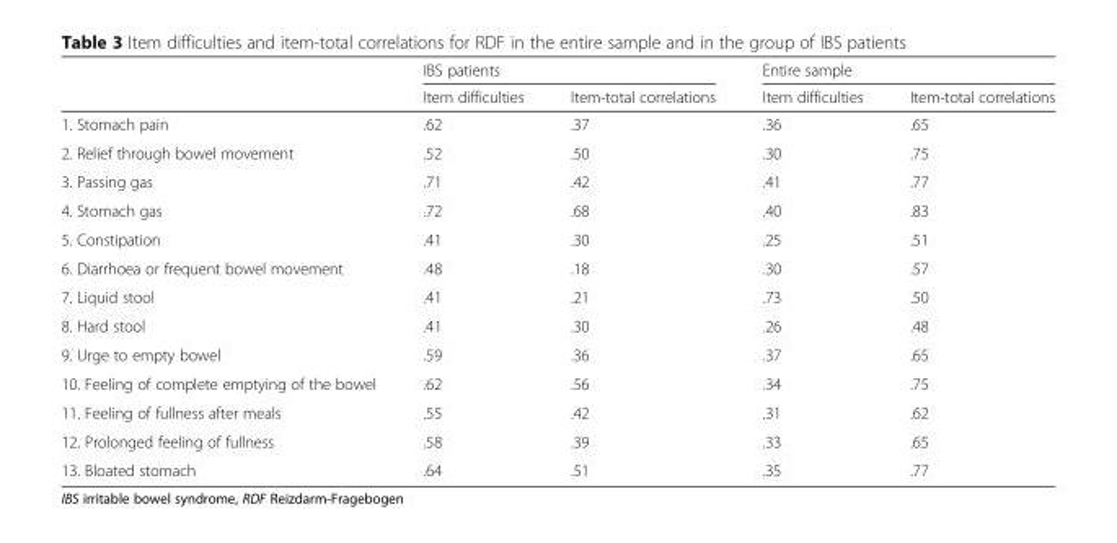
<table><thead><tr><td rowspan="2"></td><td colspan="2">IBS patients</td><td colspan="2">Entire sample</td></tr><tr><td>Item difficulties</td><td>Item-total correlations</td><td>Item difficulties</td><td>Item-total correlations</td></tr></thead><tbody><tr><td>1. Stomach pain</td><td>.62</td><td>.37</td><td>.36</td><td>.65</td></tr><tr><td>2. Relief through bowel movement</td><td>.52</td><td>.50</td><td>.30</td><td>.75</td></tr><tr><td>3. Passing gas</td><td>.71</td><td>.42</td><td>.41</td><td>.77</td></tr><tr><td>4. Stomach gas</td><td>.72</td><td>.68</td><td>.40</td><td>.83</td></tr><tr><td>5. Constipation</td><td>.41</td><td>.30</td><td>.25</td><td>.51</td></tr><tr><td>6. Diarrhoea or frequent bowel movement</td><td>.48</td><td>.18</td><td>.30</td><td>.57</td></tr><tr><td>7. Liquid stool</td><td>.41</td><td>.21</td><td>.73</td><td>.50</td></tr><tr><td>8. Hard stool</td><td>.41</td><td>.30</td><td>.26</td><td>.48</td></tr><tr><td>9. Urge to empty bowel</td><td>.59</td><td>.36</td><td>.37</td><td>.65</td></tr><tr><td>10. Feeling of complete emptying of the bowel</td><td>.62</td><td>.56</td><td>.34</td><td>.75</td></tr><tr><td>11. Feeling of fullness after meals</td><td>.55</td><td>.42</td><td>.31</td><td>.62</td></tr><tr><td>12. Prolonged feeling of fullness</td><td>.58</td><td>.39</td><td>.33</td><td>.65</td></tr><tr><td>13. Bloated stomach</td><td>.64</td><td>.51</td><td>.35</td><td>.77</td></tr></tbody></table>